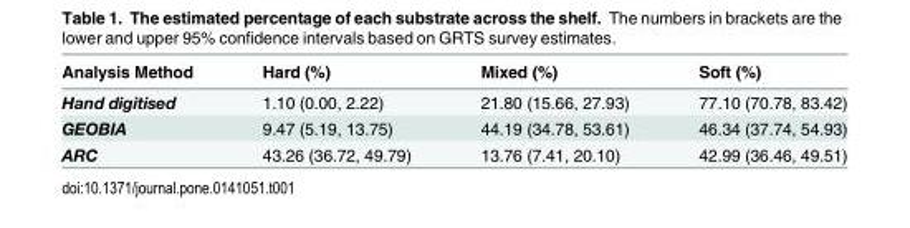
<table><thead><tr><td>Analysis Method</td><td>Hard (%)</td><td>Mixed (%)</td><td>Soft (%)</td></tr></thead><tbody><tr><td>Hand digitised</td><td>1.10 (0.00, 2.22)</td><td>21.80 (15.66, 27.93)</td><td>77.10 (70.78, 83.42)</td></tr><tr><td>GEOBIA</td><td>9.47 (5.19, 13.75)</td><td>44.19 (34.78, 53.61)</td><td>46.34 (37.74, 54.93)</td></tr><tr><td>ARC</td><td>43.26 (36.72, 49.79)</td><td>13.76 (7.41, 20.10)</td><td>42.99 (36.46, 49.51)</td></tr></tbody></table>